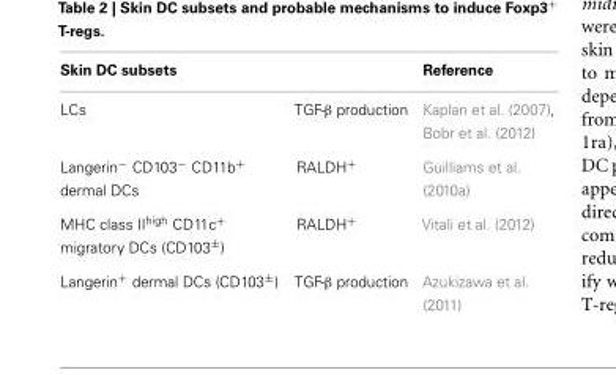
<table><thead><tr><td>Skin DC subsets</td><td></td><td>Reference</td></tr></thead><tbody><tr><td>LCs</td><td>TGF-β production</td><td>Kaplan et al. (2007), Bobr et al. (2012)</td></tr><tr><td>Langerin<sup>−</sup> CD103<sup>−</sup> CD11b<sup>+</sup> dermal DCs</td><td>RALDH<sup>+</sup></td><td>Guilliams et al. (2010a)</td></tr><tr><td>MHC class II<sup>high</sup> CD11c<sup>+</sup> migratory DCs (CD103<sup>±</sup>)</td><td>RALDH<sup>+</sup></td><td>Vitali et al. (2012)</td></tr><tr><td>Langerin<sup>+</sup> dermal DCs (CD103<sup>±</sup>)</td><td>TGF-β production</td><td>Azukizawa et al. (2011)</td></tr></tbody></table>